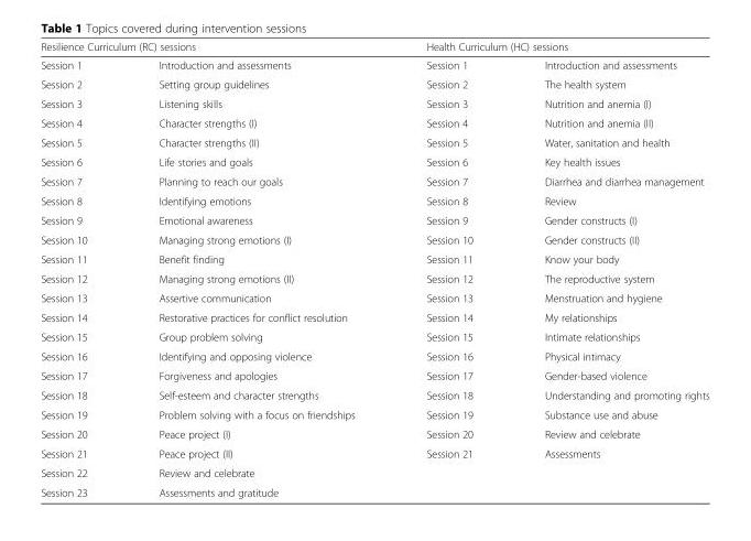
<table><thead><tr><td colspan="2">Resilience Curriculum (RC) sessions</td><td colspan="2">Health Curriculum (HC) sessions</td></tr><tr><td>Session 1</td><td>Introduction and assessments</td><td>Session 1</td><td>Introduction and assessments</td></tr></thead><tbody><tr><td>Session 2</td><td>Setting group guidelines</td><td>Session 2</td><td>The health system</td></tr><tr><td>Session 3</td><td>Listening skills</td><td>Session 3</td><td>Nutrition and anemia (I)</td></tr><tr><td>Session 4</td><td>Character strengths (I)</td><td>Session 4</td><td>Nutrition and anemia (II)</td></tr><tr><td>Session 5</td><td>Character strengths (II)</td><td>Session 5</td><td>Water, sanitation and health</td></tr><tr><td>Session 6</td><td>Life stories and goals</td><td>Session 6</td><td>Key health issues</td></tr><tr><td>Session 7</td><td>Planning to reach our goals</td><td>Session 7</td><td>Diarrhea and diarrhea management</td></tr><tr><td>Session 8</td><td>Identifying emotions</td><td>Session 8</td><td>Review</td></tr><tr><td>Session 9</td><td>Emotional awareness</td><td>Session 9</td><td>Gender constructs (I)</td></tr><tr><td>Session 10</td><td>Managing strong emotions (I)</td><td>Session 10</td><td>Gender constructs (II)</td></tr><tr><td>Session 11</td><td>Benefit finding</td><td>Session 11</td><td>Know your body</td></tr><tr><td>Session 12</td><td>Managing strong emotions (II)</td><td>Session 12</td><td>The reproductive system</td></tr><tr><td>Session 13</td><td>Assertive communication</td><td>Session 13</td><td>Menstruation and hygiene</td></tr><tr><td>Session 14</td><td>Restorative practices for conflict resolution</td><td>Session 14</td><td>My relationships</td></tr><tr><td>Session 15</td><td>Group problem solving</td><td>Session 15</td><td>Intimate relationships</td></tr><tr><td>Session 16</td><td>Identifying and opposing violence</td><td>Session 16</td><td>Physical intimacy</td></tr><tr><td>Session 17</td><td>Forgiveness and apologies</td><td>Session 17</td><td>Gender-based violence</td></tr><tr><td>Session 18</td><td>Self-esteem and character strengths</td><td>Session 18</td><td>Understanding and promoting rights</td></tr><tr><td>Session 19</td><td>Problem solving with a focus on friendships</td><td>Session 19</td><td>Substance use and abuse</td></tr><tr><td>Session 20</td><td>Peace project (I)</td><td>Session 20</td><td>Review and celebrate</td></tr><tr><td>Session 21</td><td>Peace project (II)</td><td>Session 21</td><td>Assessments</td></tr><tr><td>Session 22</td><td>Review and celebrate</td><td></td><td></td></tr><tr><td>Session 23</td><td>Assessments and gratitude</td><td></td><td></td></tr></tbody></table>